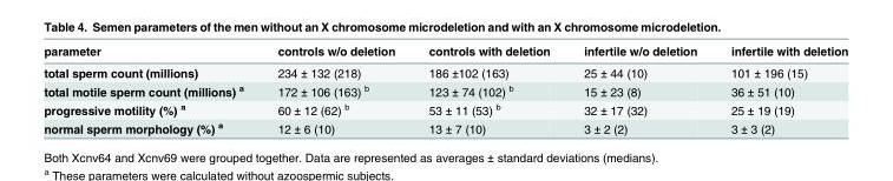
<table><thead><tr><td>parameter</td><td>controls w/o deletion</td><td>controls with deletion</td><td>infertile w/o deletion</td><td>infertile with deletion</td></tr></thead><tbody><tr><td>total sperm count (millions)</td><td>234 ± 132 (218)</td><td>186 ±102 (163)</td><td>25 ± 44 (10)</td><td>101 ± 196 (15)</td></tr><tr><td>total motile sperm count (millions) <sup>a</sup></td><td>172 ± 106 (163) <sup>b</sup></td><td>123 ± 74 (102) <sup>b</sup></td><td>15 ± 23 (8)</td><td>36 ± 51 (10)</td></tr><tr><td>progressive motility (%) <sup>a</sup></td><td>60 ± 12 (62) <sup>b</sup></td><td>53 ± 11 (53) <sup>b</sup></td><td>32 ± 17 (32)</td><td>25 ± 19 (19)</td></tr><tr><td>normal sperm morphology (%) <sup>a</sup></td><td>12 ± 6 (10)</td><td>13 ± 7 (10)</td><td>3 ± 2 (2)</td><td>3 ± 3 (2)</td></tr></tbody></table>